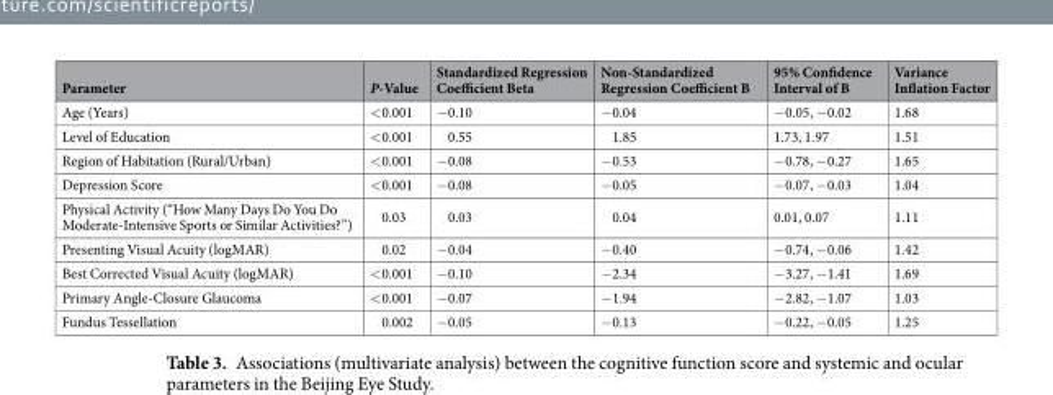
<table><thead><tr><td>Parameter</td><td>P-Value</td><td>Standardized Regression Coefficient Beta</td><td>Non-Standardized Regression Coefficient B</td><td>95% Confidence Interval of B</td><td>Variance Inflation Factor</td></tr></thead><tbody><tr><td>Age (Years)</td><td>&lt;0.001</td><td>−0.10</td><td>−0.04</td><td>−0.05, −0.02</td><td>1.68</td></tr><tr><td>Level of Education</td><td>&lt;0.001</td><td>0.55</td><td>1.85</td><td>1.73, 1.97</td><td>1.51</td></tr><tr><td>Region of Habitation (Rural/Urban)</td><td>&lt;0.001</td><td>−0.08</td><td>−0.53</td><td>−0.78, −0.27</td><td>1.65</td></tr><tr><td>Depression Score</td><td>&lt;0.001</td><td>−0.08</td><td>−0.05</td><td>−0.07, −0.03</td><td>1.04</td></tr><tr><td>Physical Activity (“How Many Days Do You Do Moderate-Intensive Sports or Similar Activities?”)</td><td>0.03</td><td>0.03</td><td>0.04</td><td>0.01, 0.07</td><td>1.11</td></tr><tr><td>Presenting Visual Acuity (logMAR)</td><td>0.02</td><td>−0.04</td><td>−0.40</td><td>−0.74, −0.06</td><td>1.42</td></tr><tr><td>Best Corrected Visual Acuity (logMAR)</td><td>&lt;0.001</td><td>−0.10</td><td>−2.34</td><td>−3.27, −1.41</td><td>1.69</td></tr><tr><td>Primary Angle-Closure Glaucoma</td><td>&lt;0.001</td><td>−0.07</td><td>−1.94</td><td>−2.82, −1.07</td><td>1.03</td></tr><tr><td>Fundus Tessellation</td><td>0.002</td><td>−0.05</td><td>−0.13</td><td>−0.22, −0.05</td><td>1.25</td></tr></tbody></table>